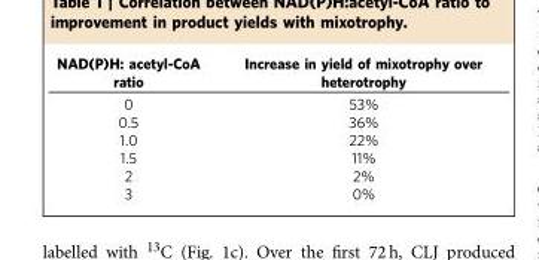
<table><thead><tr><td>NAD(P)H: acetyl-CoA ratio</td><td>Increase in yield of mixotrophy over heterotrophy</td></tr></thead><tbody><tr><td>0</td><td>53%</td></tr><tr><td>0.5</td><td>36%</td></tr><tr><td>1.0</td><td>22%</td></tr><tr><td>1.5</td><td>11%</td></tr><tr><td>2</td><td>2%</td></tr><tr><td>3</td><td>0%</td></tr></tbody></table>